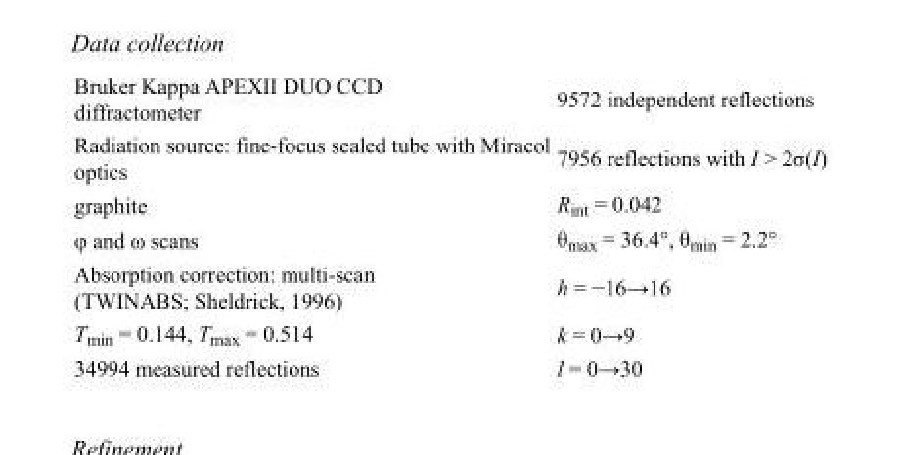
<table><tbody><tr><td>Bruker Kappa APEXII DUO CCD diffractometer</td><td>9572 independent reflections</td></tr><tr><td>Radiation source: fine-focus sealed tube with Miracol optics</td><td>7956 reflections with I &gt; 2σ(I)</td></tr><tr><td>graphite</td><td>R<sub>int</sub> = 0.042</td></tr><tr><td>φ and ω scans</td><td>θ<sub>max</sub> = 36.4°, θ<sub>min</sub> = 2.2°</td></tr><tr><td>Absorption correction: multi-scan (TWINABS; Sheldrick, 1996)</td><td>h = −16→16</td></tr><tr><td>T<sub>min</sub> = 0.144, T<sub>max</sub> = 0.514</td><td>k = 0→9</td></tr><tr><td>34994 measured reflections</td><td>l = 0→30</td></tr></tbody></table>